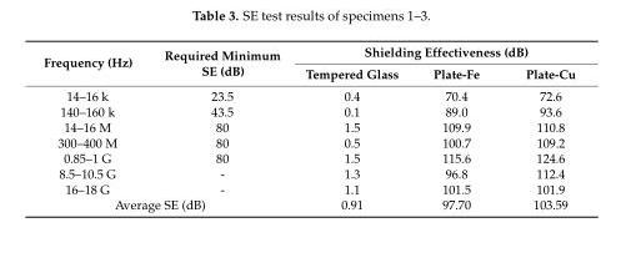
<table><thead><tr><td rowspan="2">Frequency (Hz)</td><td rowspan="2">Required Minimum SE (dB)</td><td colspan="3">Shielding Effectiveness (dB)</td></tr><tr><td>Tempered Glass</td><td>Plate-Fe</td><td>Plate-Cu</td></tr></thead><tbody><tr><td>14–16 k</td><td>23.5</td><td>0.4</td><td>70.4</td><td>72.6</td></tr><tr><td>140–160 k</td><td>43.5</td><td>0.1</td><td>89.0</td><td>93.6</td></tr><tr><td>14–16 M</td><td>80</td><td>1.5</td><td>109.9</td><td>110.8</td></tr><tr><td>300–400 M</td><td>80</td><td>0.5</td><td>100.7</td><td>109.2</td></tr><tr><td>0.85–1 G</td><td>80</td><td>1.5</td><td>115.6</td><td>124.6</td></tr><tr><td>8.5–10.5 G</td><td>-</td><td>1.3</td><td>96.8</td><td>112.4</td></tr><tr><td>16–18 G</td><td>-</td><td>1.1</td><td>101.5</td><td>101.9</td></tr><tr><td colspan="2">Average SE (dB)</td><td>0.91</td><td>97.70</td><td>103.59</td></tr></tbody></table>